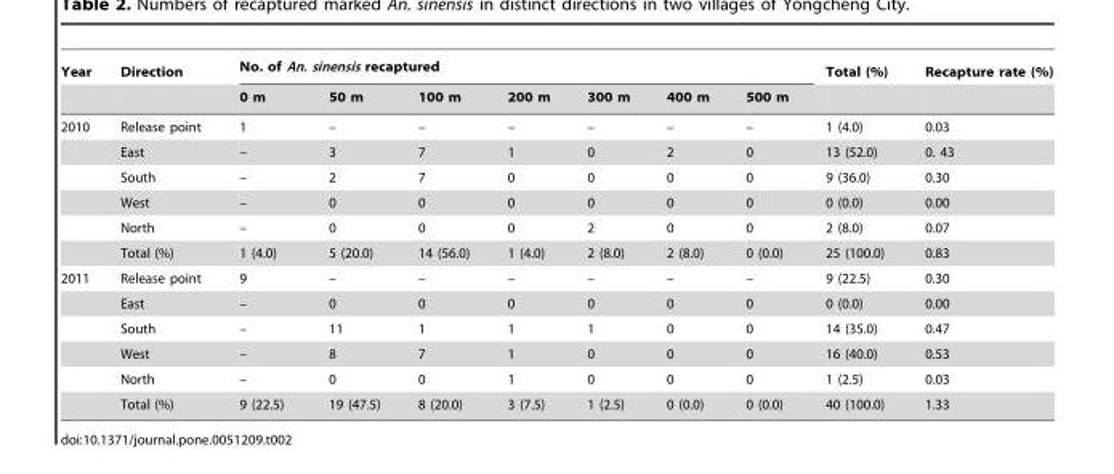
<table><thead><tr><td rowspan="2">Year</td><td rowspan="2">Direction</td><td colspan="7">No. of An. sinensis recaptured</td><td rowspan="2">Total (%)</td><td rowspan="2">Recapture rate (%)</td></tr><tr><td>0 m</td><td>50 m</td><td>100 m</td><td>200 m</td><td>300 m</td><td>400 m</td><td>500 m</td></tr></thead><tbody><tr><td rowspan="6">2010</td><td>Release point</td><td>1</td><td>–</td><td>–</td><td>–</td><td>–</td><td>–</td><td>–</td><td>1 (4.0)</td><td>0.03</td></tr><tr><td>East</td><td>–</td><td>3</td><td>7</td><td>1</td><td>0</td><td>2</td><td>0</td><td>13 (52.0)</td><td>0. 43</td></tr><tr><td>South</td><td>–</td><td>2</td><td>7</td><td>0</td><td>0</td><td>0</td><td>0</td><td>9 (36.0)</td><td>0.30</td></tr><tr><td>West</td><td>–</td><td>0</td><td>0</td><td>0</td><td>0</td><td>0</td><td>0</td><td>0 (0.0)</td><td>0.00</td></tr><tr><td>North</td><td>–</td><td>0</td><td>0</td><td>0</td><td>2</td><td>0</td><td>0</td><td>2 (8.0)</td><td>0.07</td></tr><tr><td>Total (%)</td><td>1 (4.0)</td><td>5 (20.0)</td><td>14 (56.0)</td><td>1 (4.0)</td><td>2 (8.0)</td><td>2 (8.0)</td><td>0 (0.0)</td><td>25 (100.0)</td><td>0.83</td></tr><tr><td rowspan="6">2011</td><td>Release point</td><td>9</td><td>–</td><td>–</td><td>–</td><td>–</td><td>–</td><td>–</td><td>9 (22.5)</td><td>0.30</td></tr><tr><td>East</td><td>–</td><td>0</td><td>0</td><td>0</td><td>0</td><td>0</td><td>0</td><td>0 (0.0)</td><td>0.00</td></tr><tr><td>South</td><td>–</td><td>11</td><td>1</td><td>1</td><td>1</td><td>0</td><td>0</td><td>14 (35.0)</td><td>0.47</td></tr><tr><td>West</td><td>–</td><td>8</td><td>7</td><td>1</td><td>0</td><td>0</td><td>0</td><td>16 (40.0)</td><td>0.53</td></tr><tr><td>North</td><td>–</td><td>0</td><td>0</td><td>1</td><td>0</td><td>0</td><td>0</td><td>1 (2.5)</td><td>0.03</td></tr><tr><td>Total (%)</td><td>9 (22.5)</td><td>19 (47.5)</td><td>8 (20.0)</td><td>3 (7.5)</td><td>1 (2.5)</td><td>0 (0.0)</td><td>0 (0.0)</td><td>40 (100.0)</td><td>1.33</td></tr></tbody></table>